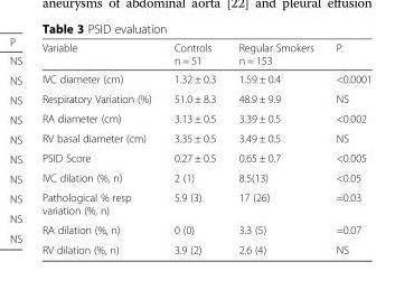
<table><thead><tr><td>Variable</td><td>Controls n = 51</td><td>Regular Smokers n = 153</td><td>P</td></tr></thead><tbody><tr><td>IVC diameter (cm)</td><td>1.32 ± 0.3</td><td>1.59 ± 0.4</td><td>&lt;0.0001</td></tr><tr><td>Respiratory Variation (%)</td><td>51.0 ± 8.3</td><td>48.9 ± 9.9</td><td>NS</td></tr><tr><td>RA diameter (cm)</td><td>3.13 ± 0.5</td><td>3.39 ± 0.5</td><td>&lt;0.002</td></tr><tr><td>RV basal diameter (cm)</td><td>3.35 ± 0.5</td><td>3.49 ± 0.5</td><td>NS</td></tr><tr><td>PSID Score</td><td>0.27 ± 0.5</td><td>0.65 ± 0.7</td><td>&lt;0.005</td></tr><tr><td>IVC dilation (%, n)</td><td>2 (1)</td><td>8.5(13)</td><td>&lt;0.05</td></tr><tr><td>Pathological % resp variation (%, n)</td><td>5.9 (3)</td><td>17 (26)</td><td>=0.03</td></tr><tr><td>RA dilation (%, n)</td><td>0 (0)</td><td>3.3 (5)</td><td>=0.07</td></tr><tr><td>RV dilation (%, n)</td><td>3.9 (2)</td><td>2.6 (4)</td><td>NS</td></tr></tbody></table>